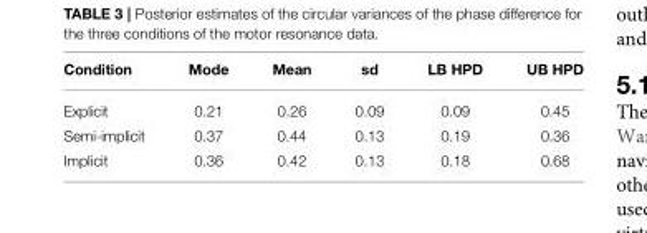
<table><thead><tr><td>Condition</td><td>Mode</td><td>Mean</td><td>sd</td><td>LB HPD</td><td>UB HPD</td></tr></thead><tbody><tr><td>Explicit</td><td>0.21</td><td>0.26</td><td>0.09</td><td>0.09</td><td>0.45</td></tr><tr><td>Semi-implicit</td><td>0.37</td><td>0.44</td><td>0.13</td><td>0.19</td><td>0.36</td></tr><tr><td>Implicit</td><td>0.36</td><td>0.42</td><td>0.13</td><td>0.18</td><td>0.68</td></tr></tbody></table>